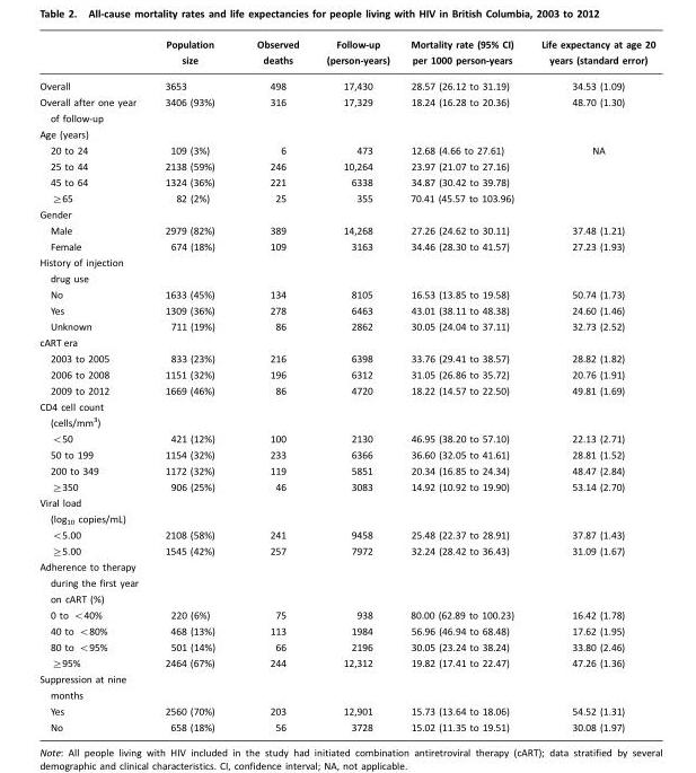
<table><thead><tr><td></td><td>Population size</td><td>Observed deaths</td><td>Follow-up (person-years)</td><td>Mortality rate (95% CI) per 1000 person-years</td><td>Life expectancy at age 20 years (standard error)</td></tr></thead><tbody><tr><td>Overall</td><td>3653</td><td>498</td><td>17,430</td><td>28.57 (26.12 to 31.19)</td><td>34.53 (1.09)</td></tr><tr><td>Overall after one year of follow-up</td><td>3406 (93%)</td><td>316</td><td>17,329</td><td>18.24 (16.28 to 20.36)</td><td>48.70 (1.30)</td></tr><tr><td colspan="6">Age (years)</td></tr><tr><td>20 to 24</td><td>109 (3%)</td><td>6</td><td>473</td><td>12.68 (4.66 to 27.61)</td><td>NA</td></tr><tr><td>25 to 44</td><td>2138 (59%)</td><td>246</td><td>10,264</td><td>23.97 (21.07 to 27.16)</td><td></td></tr><tr><td>45 to 64</td><td>1324 (36%)</td><td>221</td><td>6338</td><td>34.87 (30.42 to 39.78)</td><td></td></tr><tr><td>≥65</td><td>82 (2%)</td><td>25</td><td>355</td><td>70.41 (45.57 to 103.96)</td><td></td></tr><tr><td colspan="6">Gender</td></tr><tr><td>Male</td><td>2979 (82%)</td><td>389</td><td>14,268</td><td>27.26 (24.62 to 30.11)</td><td>37.48 (1.21)</td></tr><tr><td>Female</td><td>674 (18%)</td><td>109</td><td>3163</td><td>34.46 (28.30 to 41.57)</td><td>27.23 (1.93)</td></tr><tr><td colspan="6">History of injection drug use</td></tr><tr><td>No</td><td>1633 (45%)</td><td>134</td><td>8105</td><td>16.53 (13.85 to 19.58)</td><td>50.74 (1.73)</td></tr><tr><td>Yes</td><td>1309 (36%)</td><td>278</td><td>6463</td><td>43.01 (38.11 to 48.38)</td><td>24.60 (1.46)</td></tr><tr><td>Unknown</td><td>711 (19%)</td><td>86</td><td>2862</td><td>30.05 (24.04 to 37.11)</td><td>32.73 (2.52)</td></tr><tr><td colspan="6">cART era</td></tr><tr><td>2003 to 2005</td><td>833 (23%)</td><td>216</td><td>6398</td><td>33.76 (29.41 to 38.57)</td><td>28.82 (1.82)</td></tr><tr><td>2006 to 2008</td><td>1151 (32%)</td><td>196</td><td>6312</td><td>31.05 (26.86 to 35.72)</td><td>20.76 (1.91)</td></tr><tr><td>2009 to 2012</td><td>1669 (46%)</td><td>86</td><td>4720</td><td>18.22 (14.57 to 22.50)</td><td>49.81 (1.69)</td></tr><tr><td colspan="6">CD4 cell count (cells/mm<sup>3</sup>)</td></tr><tr><td>&lt;50</td><td>421 (12%)</td><td>100</td><td>2130</td><td>46.95 (38.20 to 57.10)</td><td>22.13 (2.71)</td></tr><tr><td>50 to 199</td><td>1154 (32%)</td><td>233</td><td>6366</td><td>36.60 (32.05 to 41.61)</td><td>28.81 (1.52)</td></tr><tr><td>200 to 349</td><td>1172 (32%)</td><td>119</td><td>5851</td><td>20.34 (16.85 to 24.34)</td><td>48.47 (2.84)</td></tr><tr><td>≥350</td><td>906 (25%)</td><td>46</td><td>3083</td><td>14.92 (10.92 to 19.90)</td><td>53.14 (2.70)</td></tr><tr><td colspan="6">Viral load (log<sub>10</sub> copies/mL)</td></tr><tr><td>&lt;5.00</td><td>2108 (58%)</td><td>241</td><td>9458</td><td>25.48 (22.37 to 28.91)</td><td>37.87 (1.43)</td></tr><tr><td>≥5.00</td><td>1545 (42%)</td><td>257</td><td>7972</td><td>32.24 (28.42 to 36.43)</td><td>31.09 (1.67)</td></tr><tr><td colspan="6">Adherence to therapy during the first year on cART (%)</td></tr><tr><td>0 to &lt;40%</td><td>220 (6%)</td><td>75</td><td>938</td><td>80.00 (62.89 to 100.23)</td><td>16.42 (1.78)</td></tr><tr><td>40 to &lt;80%</td><td>468 (13%)</td><td>113</td><td>1984</td><td>56.96 (46.94 to 68.48)</td><td>17.62 (1.95)</td></tr><tr><td>80 to &lt;95%</td><td>501 (14%)</td><td>66</td><td>2196</td><td>30.05 (23.24 to 38.24)</td><td>33.80 (2.46)</td></tr><tr><td>≥95%</td><td>2464 (67%)</td><td>244</td><td>12,312</td><td>19.82 (17.41 to 22.47)</td><td>47.26 (1.36)</td></tr><tr><td colspan="6">Suppression at nine months</td></tr><tr><td>Yes</td><td>2560 (70%)</td><td>203</td><td>12,901</td><td>15.73 (13.64 to 18.06)</td><td>54.52 (1.31)</td></tr><tr><td>No</td><td>658 (18%)</td><td>56</td><td>3728</td><td>15.02 (11.35 to 19.51)</td><td>30.08 (1.97)</td></tr></tbody></table>